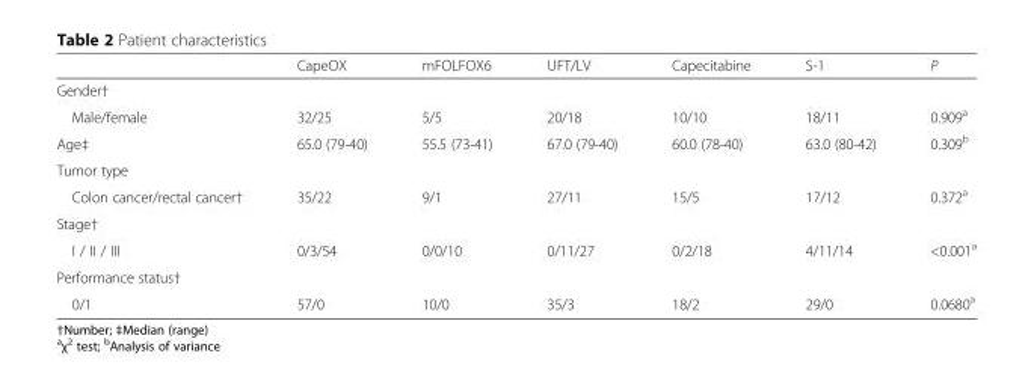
<table><thead><tr><td></td><td>CapeOX</td><td>mFOLFOX6</td><td>UFT/LV</td><td>Capecitabine</td><td>S-1</td><td>P</td></tr></thead><tbody><tr><td colspan="7">Gender†</td></tr><tr><td>Male/female</td><td>32/25</td><td>5/5</td><td>20/18</td><td>10/10</td><td>18/11</td><td>0.909<sup>a</sup></td></tr><tr><td>Age‡</td><td>65.0 (79-40)</td><td>55.5 (73-41)</td><td>67.0 (79-40)</td><td>60.0 (78-40)</td><td>63.0 (80-42)</td><td>0.309<sup>b</sup></td></tr><tr><td colspan="7">Tumor type</td></tr><tr><td>Colon cancer/rectal cancer†</td><td>35/22</td><td>9/1</td><td>27/11</td><td>15/5</td><td>17/12</td><td>0.372<sup>a</sup></td></tr><tr><td colspan="7">Stage†</td></tr><tr><td>I / II / III</td><td>0/3/54</td><td>0/0/10</td><td>0/11/27</td><td>0/2/18</td><td>4/11/14</td><td>&lt;0.001<sup>a</sup></td></tr><tr><td colspan="7">Performance status†</td></tr><tr><td>0/1</td><td>57/0</td><td>10/0</td><td>35/3</td><td>18/2</td><td>29/0</td><td>0.0680<sup>a</sup></td></tr></tbody></table>